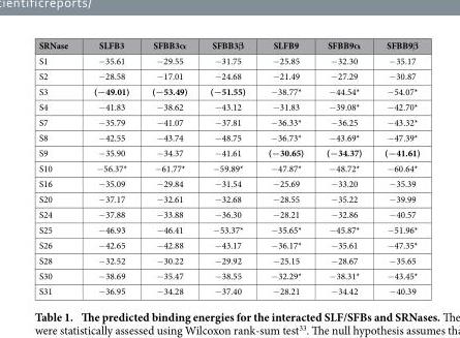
<table><thead><tr><td>SRNase</td><td>SLFB3</td><td>SFBB3α</td><td>SFBB3β</td><td>SLFB9</td><td>SFBB9α</td><td>SFBB9β</td></tr></thead><tbody><tr><td>S1</td><td>− 35.61</td><td>− 29.55</td><td>− 31.75</td><td>− 25.85</td><td>− 32.30</td><td>− 35.17</td></tr><tr><td>S2</td><td>− 28.58</td><td>− 17.01</td><td>− 24.68</td><td>− 21.49</td><td>− 27.29</td><td>− 30.87</td></tr><tr><td>S3</td><td>(−49.01)</td><td>(−53.49)</td><td>(−51.55)</td><td>− 38.77*</td><td>− 44.54*</td><td>− 54.07*</td></tr><tr><td>S4</td><td>− 41.83</td><td>− 38.62</td><td>− 43.12</td><td>− 31.83</td><td>− 39.08*</td><td>− 42.70*</td></tr><tr><td>S7</td><td>− 35.79</td><td>− 41.07</td><td>− 37.81</td><td>− 36.33*</td><td>− 36.25</td><td>− 43.32*</td></tr><tr><td>S8</td><td>− 42.55</td><td>− 43.74</td><td>− 48.75</td><td>− 36.73*</td><td>− 43.69*</td><td>− 47.39*</td></tr><tr><td>S9</td><td>− 35.90</td><td>− 34.37</td><td>− 41.61</td><td>(−30.65)</td><td>(−34.37)</td><td>(−41.61)</td></tr><tr><td>S10</td><td>− 56.37*</td><td>− 61.77*</td><td>− 59.89*</td><td>− 47.87*</td><td>− 48.72*</td><td>− 60.64*</td></tr><tr><td>S16</td><td>− 35.09</td><td>− 29.84</td><td>− 31.54</td><td>− 25.69</td><td>− 33.20</td><td>− 35.39</td></tr><tr><td>S20</td><td>− 37.17</td><td>− 32.61</td><td>− 32.68</td><td>− 28.55</td><td>− 35.22</td><td>− 39.99</td></tr><tr><td>S24</td><td>− 37.88</td><td>− 33.88</td><td>− 36.30</td><td>− 28.21</td><td>− 32.86</td><td>− 40.57</td></tr><tr><td>S25</td><td>− 46.93</td><td>− 46.41</td><td>− 53.37*</td><td>− 35.65*</td><td>− 45.87*</td><td>− 51.96*</td></tr><tr><td>S26</td><td>− 42.65</td><td>− 42.88</td><td>− 43.17</td><td>− 36.17*</td><td>− 35.61</td><td>− 47.35*</td></tr><tr><td>S28</td><td>− 32.52</td><td>− 30.22</td><td>− 29.92</td><td>− 25.15</td><td>− 28.67</td><td>− 35.65</td></tr><tr><td>S30</td><td>− 38.69</td><td>− 35.47</td><td>− 38.55</td><td>− 32.29*</td><td>− 38.31*</td><td>− 43.45*</td></tr><tr><td>S31</td><td>− 36.95</td><td>− 34.28</td><td>− 37.40</td><td>− 28.21</td><td>− 34.42</td><td>− 40.39</td></tr></tbody></table>